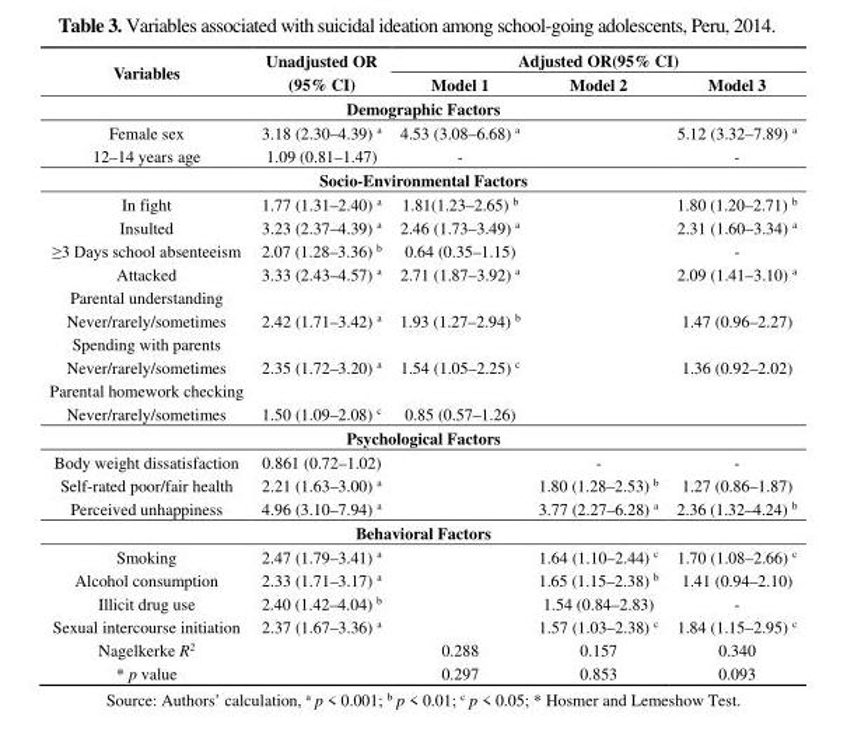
<table><thead><tr><td rowspan="2">Variables</td><td rowspan="2">Unadjusted OR (95% CI)</td><td colspan="3">Adjusted OR(95% CI)</td></tr><tr><td>Model 1</td><td>Model 2</td><td>Model 3</td></tr></thead><tbody><tr><td colspan="5">Demographic Factors</td></tr><tr><td>Female sex</td><td>3.18 (2.30–4.39) <sup>a</sup></td><td>4.53 (3.08–6.68) <sup>a</sup></td><td></td><td>5.12 (3.32–7.89) <sup>a</sup></td></tr><tr><td>12–14 years age</td><td>1.09 (0.81–1.47)</td><td>-</td><td></td><td>-</td></tr><tr><td colspan="5">Socio-Environmental Factors</td></tr><tr><td>In fight</td><td>1.77 (1.31–2.40) <sup>a</sup></td><td>1.81(1.23–2.65) <sup>b</sup></td><td></td><td>1.80 (1.20–2.71) <sup>b</sup></td></tr><tr><td>Insulted</td><td>3.23 (2.37–4.39) <sup>a</sup></td><td>2.46 (1.73–3.49) <sup>a</sup></td><td></td><td>2.31 (1.60–3.34) <sup>a</sup></td></tr><tr><td>≥3 Days school absenteeism</td><td>2.07 (1.28–3.36) <sup>b</sup></td><td>0.64 (0.35–1.15)</td><td></td><td>-</td></tr><tr><td>Attacked</td><td>3.33 (2.43–4.57) <sup>a</sup></td><td>2.71 (1.87–3.92) <sup>a</sup></td><td></td><td>2.09 (1.41–3.10) <sup>a</sup></td></tr><tr><td colspan="5">Parental understanding</td></tr><tr><td>Never/rarely/sometimes</td><td>2.42 (1.71–3.42) <sup>a</sup></td><td>1.93 (1.27–2.94) <sup>b</sup></td><td></td><td>1.47 (0.96–2.27)</td></tr><tr><td colspan="5">Spending with parents</td></tr><tr><td>Never/rarely/sometimes</td><td>2.35 (1.72–3.20) <sup>a</sup></td><td>1.54 (1.05–2.25) <sup>c</sup></td><td></td><td>1.36 (0.92–2.02)</td></tr><tr><td colspan="5">Parental homework checking</td></tr><tr><td>Never/rarely/sometimes</td><td>1.50 (1.09–2.08) <sup>c</sup></td><td>0.85 (0.57–1.26)</td><td></td><td></td></tr><tr><td colspan="5">Psychological Factors</td></tr><tr><td>Body weight dissatisfaction</td><td>0.861 (0.72–1.02)</td><td></td><td>-</td><td>-</td></tr><tr><td>Self-rated poor/fair health</td><td>2.21 (1.63–3.00) <sup>a</sup></td><td></td><td>1.80 (1.28–2.53) <sup>b</sup></td><td>1.27 (0.86–1.87)</td></tr><tr><td>Perceived unhappiness</td><td>4.96 (3.10–7.94) <sup>a</sup></td><td></td><td>3.77 (2.27–6.28) <sup>a</sup></td><td>2.36 (1.32–4.24) <sup>b</sup></td></tr><tr><td colspan="5">Behavioral Factors</td></tr><tr><td>Smoking</td><td>2.47 (1.79–3.41) <sup>a</sup></td><td></td><td>1.64 (1.10–2.44) <sup>c</sup></td><td>1.70 (1.08–2.66) <sup>c</sup></td></tr><tr><td>Alcohol consumption</td><td>2.33 (1.71–3.17) <sup>a</sup></td><td></td><td>1.65 (1.15–2.38) <sup>b</sup></td><td>1.41 (0.94–2.10)</td></tr><tr><td>Illicit drug use</td><td>2.40 (1.42–4.04) <sup>b</sup></td><td></td><td>1.54 (0.84–2.83)</td><td>-</td></tr><tr><td>Sexual intercourse initiation</td><td>2.37 (1.67–3.36) <sup>a</sup></td><td></td><td>1.57 (1.03–2.38) <sup>c</sup></td><td>1.84 (1.15–2.95) <sup>c</sup></td></tr><tr><td>Nagelkerke R<sup>2</sup></td><td></td><td>0.288</td><td>0.157</td><td>0.340</td></tr><tr><td>* p value</td><td></td><td>0.297</td><td>0.853</td><td>0.093</td></tr></tbody></table>